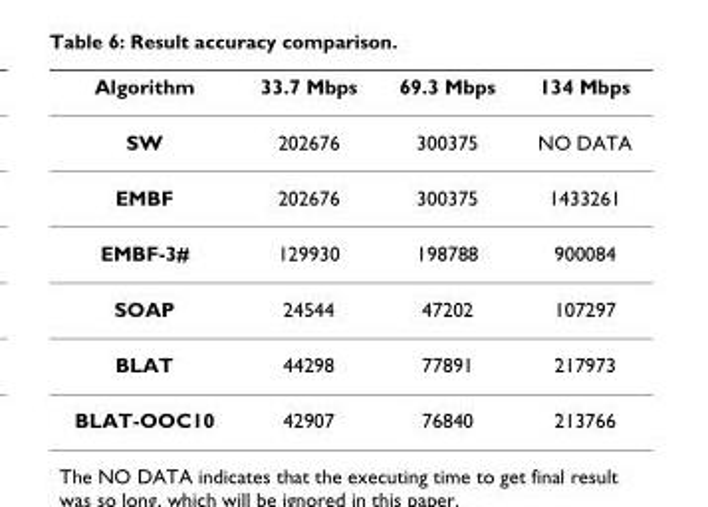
<table><thead><tr><td>Algorithm</td><td>33.7 Mbps</td><td>69.3 Mbps</td><td>134 Mbps</td></tr></thead><tbody><tr><td>SW</td><td>202676</td><td>300375</td><td>NO DATA</td></tr><tr><td>EMBF</td><td>202676</td><td>300375</td><td>1433261</td></tr><tr><td>EMBF-3#</td><td>129930</td><td>198788</td><td>900084</td></tr><tr><td>SOAP</td><td>24544</td><td>47202</td><td>107297</td></tr><tr><td>BLAT</td><td>44298</td><td>77891</td><td>217973</td></tr><tr><td>BLAT-OOC10</td><td>42907</td><td>76840</td><td>213766</td></tr></tbody></table>